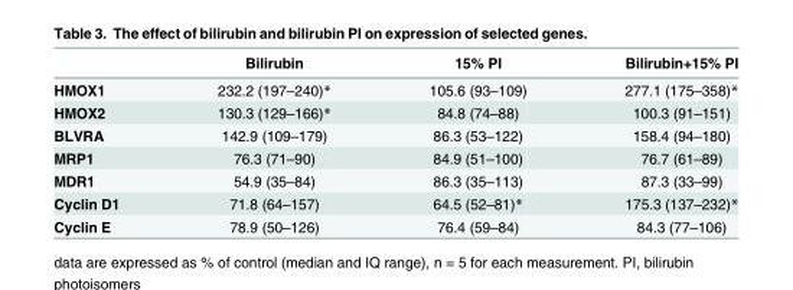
<table><thead><tr><td></td><td>Bilirubin</td><td>15% PI</td><td>Bilirubin+15% PI</td></tr></thead><tbody><tr><td>HMOX1</td><td>232.2 (197–240)*</td><td>105.6 (93–109)</td><td>277.1 (175–358)*</td></tr><tr><td>HMOX2</td><td>130.3 (129–166)*</td><td>84.8 (74–88)</td><td>100.3 (91–151)</td></tr><tr><td>BLVRA</td><td>142.9 (109–179)</td><td>86.3 (53–122)</td><td>158.4 (94–180)</td></tr><tr><td>MRP1</td><td>76.3 (71–90)</td><td>84.9 (51–100)</td><td>76.7 (61–89)</td></tr><tr><td>MDR1</td><td>54.9 (35–84)</td><td>86.3 (35–113)</td><td>87.3 (33–99)</td></tr><tr><td>Cyclin D1</td><td>71.8 (64–157)</td><td>64.5 (52–81)*</td><td>175.3 (137–232)*</td></tr><tr><td>Cyclin E</td><td>78.9 (50–126)</td><td>76.4 (59–84)</td><td>84.3 (77–106)</td></tr></tbody></table>